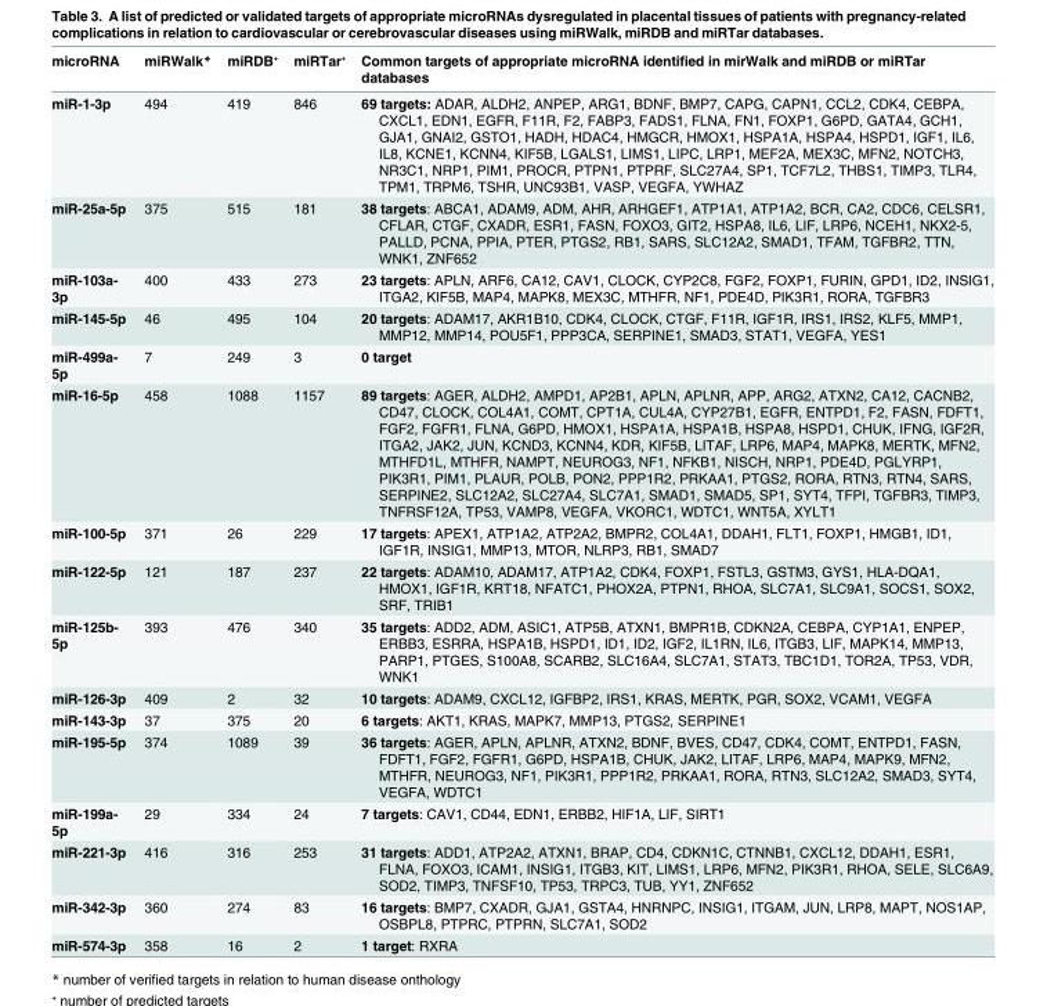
<table><thead><tr><td>microRNA</td><td>miRWalk*</td><td>miRDB⁺</td><td>miRTar⁺</td><td>Common targets of appropriate microRNA identified in mirWalk and miRDB or miRTar databases</td></tr></thead><tbody><tr><td>miR-1-3p</td><td>494</td><td>419</td><td>846</td><td>69 targets: ADAR, ALDH2, ANPEP, ARG1, BDNF, BMP7, CAPG, CAPN1, CCL2, CDK4, CEBPA, CXCL1, EDN1, EGFR, F11R, F2, FABP3, FADS1, FLNA, FN1, FOXP1, G6PD, GATA4, GCH1, GJA1, GNAI2, GSTO1, HADH, HDAC4, HMGCR, HMOX1, HSPA1A, HSPA4, HSPD1, IGF1, IL6, IL8, KCNE1, KCNN4, KIF5B, LGALS1, LIMS1, LIPC, LRP1, MEF2A, MEX3C, MFN2, NOTCH3, NR3C1, NRP1, PIM1, PROCR, PTPN1, PTPRF, SLC27A4, SP1, TCF7L2, THBS1, TIMP3, TLR4, TPM1, TRPM6, TSHR, UNC93B1, VASP, VEGFA, YWHAZ</td></tr><tr><td>miR-25a-5p</td><td>375</td><td>515</td><td>181</td><td>38 targets: ABCA1, ADAM9, ADM, AHR, ARHGEF1, ATP1A1, ATP1A2, BCR, CA2, CDC6, CELSR1, CFLAR, CTGF, CXADR, ESR1, FASN, FOXO3, GIT2, HSPA8, IL6, LIF, LRP6, NCEH1, NKX2-5, PALLD, PCNA, PPIA, PTER, PTGS2, RB1, SARS, SLC12A2, SMAD1, TFAM, TGFBR2, TTN, WNK1, ZNF652</td></tr><tr><td>miR-103a- 3p</td><td>400</td><td>433</td><td>273</td><td>23 targets: APLN, ARF6, CA12, CAV1, CLOCK, CYP2C8, FGF2, FOXP1, FURIN, GPD1, ID2, INSIG1, ITGA2, KIF5B, MAP4, MAPK8, MEX3C, MTHFR, NF1, PDE4D, PIK3R1, RORA, TGFBR3</td></tr><tr><td>miR-145-5p</td><td>46</td><td>495</td><td>104</td><td>20 targets: ADAM17, AKR1B10, CDK4, CLOCK, CTGF, F11R, IGF1R, IRS1, IRS2, KLF5, MMP1, MMP12, MMP14, POU5F1, PPP3CA, SERPINE1, SMAD3, STAT1, VEGFA, YES1</td></tr><tr><td>miR-499a- 5p</td><td>7</td><td>249</td><td>3</td><td>0 target</td></tr><tr><td>miR-16-5p</td><td>458</td><td>1088</td><td>1157</td><td>89 targets: AGER, ALDH2, AMPD1, AP2B1, APLN, APLNR, APP, ARG2, ATXN2, CA12, CACNB2, CD47, CLOCK, COL4A1, COMT, CPT1A, CUL4A, CYP27B1, EGFR, ENTPD1, F2, FASN, FDFT1, FGF2, FGFR1, FLNA, G6PD, HMOX1, HSPA1A, HSPA1B, HSPA8, HSPD1, CHUK, IFNG, IGF2R, ITGA2, JAK2, JUN, KCND3, KCNN4, KDR, KIF5B, LITAF, LRP6, MAP4, MAPK8, MERTK, MFN2, MTHFD1L, MTHFR, NAMPT, NEUROG3, NF1, NFKB1, NISCH, NRP1, PDE4D, PGLYRP1, PIK3R1, PIM1, PLAUR, POLB, PON2, PPP1R2, PRKAA1, PTGS2, RORA, RTN3, RTN4, SARS, SERPINE2, SLC12A2, SLC27A4, SLC7A1, SMAD1, SMAD5, SP1, SYT4, TFPI, TGFBR3, TIMP3, TNFRSF12A, TP53, VAMP8, VEGFA, VKORC1, WDTC1, WNT5A, XYLT1</td></tr><tr><td>miR-100-5p</td><td>371</td><td>26</td><td>229</td><td>17 targets: APEX1, ATP1A2, ATP2A2, BMPR2, COL4A1, DDAH1, FLT1, FOXP1, HMGB1, ID1, IGF1R, INSIG1, MMP13, MTOR, NLRP3, RB1, SMAD7</td></tr><tr><td>miR-122-5p</td><td>121</td><td>187</td><td>237</td><td>22 targets: ADAM10, ADAM17, ATP1A2, CDK4, FOXP1, FSTL3, GSTM3, GYS1, HLA-DQA1, HMOX1, IGF1R, KRT18, NFATC1, PHOX2A, PTPN1, RHOA, SLC7A1, SLC9A1, SOCS1, SOX2, SRF, TRIB1</td></tr><tr><td>miR-125b- 5p</td><td>393</td><td>476</td><td>340</td><td>35 targets: ADD2, ADM, ASIC1, ATP5B, ATXN1, BMPR1B, CDKN2A, CEBPA, CYP1A1, ENPEP, ERBB3, ESRRA, HSPA1B, HSPD1, ID1, ID2, IGF2, IL1RN, IL6, ITGB3, LIF, MAPK14, MMP13, PARP1, PTGES, S100A8, SCARB2, SLC16A4, SLC7A1, STAT3, TBC1D1, TOR2A, TP53, VDR, WNK1</td></tr><tr><td>miR-126-3p</td><td>409</td><td>2</td><td>32</td><td>10 targets: ADAM9, CXCL12, IGFBP2, IRS1, KRAS, MERTK, PGR, SOX2, VCAM1, VEGFA</td></tr><tr><td>miR-143-3p</td><td>37</td><td>375</td><td>20</td><td>6 targets: AKT1, KRAS, MAPK7, MMP13, PTGS2, SERPINE1</td></tr><tr><td>miR-195-5p</td><td>374</td><td>1089</td><td>39</td><td>36 targets: AGER, APLN, APLNR, ATXN2, BDNF, BVES, CD47, CDK4, COMT, ENTPD1, FASN, FDFT1, FGF2, FGFR1, G6PD, HSPA1B, CHUK, JAK2, LITAF, LRP6, MAP4, MAPK9, MFN2, MTHFR, NEUROG3, NF1, PIK3R1, PPP1R2, PRKAA1, RORA, RTN3, SLC12A2, SMAD3, SYT4, VEGFA, WDTC1</td></tr><tr><td>miR-199a- 5p</td><td>29</td><td>334</td><td>24</td><td>7 targets: CAV1, CD44, EDN1, ERBB2, HIF1A, LIF, SIRT1</td></tr><tr><td>miR-221-3p</td><td>416</td><td>316</td><td>253</td><td>31 targets: ADD1, ATP2A2, ATXN1, BRAP, CD4, CDKN1C, CTNNB1, CXCL12, DDAH1, ESR1, FLNA, FOXO3, ICAM1, INSIG1, ITGB3, KIT, LIMS1, LRP6, MFN2, PIK3R1, RHOA, SELE, SLC6A9, SOD2, TIMP3, TNFSF10, TP53, TRPC3, TUB, YY1, ZNF652</td></tr><tr><td>miR-342-3p</td><td>360</td><td>274</td><td>83</td><td>16 targets: BMP7, CXADR, GJA1, GSTA4, HNRNPC, INSIG1, ITGAM, JUN, LRP8, MAPT, NOS1AP, OSBPL8, PTPRC, PTPRN, SLC7A1, SOD2</td></tr><tr><td>miR-574-3p</td><td>358</td><td>16</td><td>2</td><td>1 target: RXRA</td></tr></tbody></table>